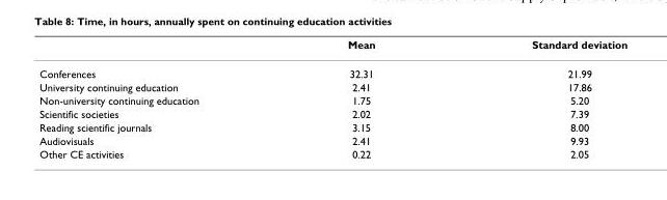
<table><thead><tr><td></td><td>Mean</td><td>Standard deviation</td></tr></thead><tbody><tr><td>Conferences</td><td>32.31</td><td>21.99</td></tr><tr><td>University continuing education</td><td>2.41</td><td>17.86</td></tr><tr><td>Non-university continuing education</td><td>1.75</td><td>5.20</td></tr><tr><td>Scientific societies</td><td>2.02</td><td>7.39</td></tr><tr><td>Reading scientific journals</td><td>3.15</td><td>8.00</td></tr><tr><td>Audiovisuals</td><td>2.41</td><td>9.93</td></tr><tr><td>Other CE activities</td><td>0.22</td><td>2.05</td></tr></tbody></table>